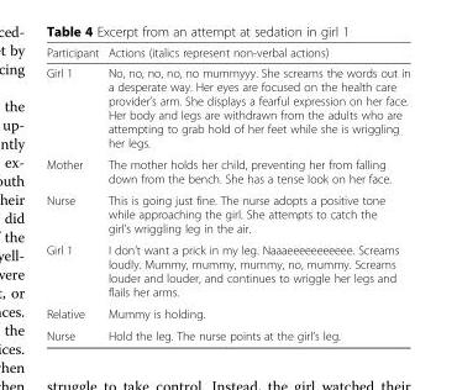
<table><thead><tr><td>Participant</td><td>Actions (italics represent non-verbal actions)</td></tr></thead><tbody><tr><td>Girl 1</td><td>No, no, no, no, no mummyyy. She screams the words out in a desperate way. Her eyes are focused on the health care provider’s arm. She displays a fearful expression on her face. Her body and legs are withdrawn from the adults who are attempting to grab hold of her feet while she is wriggling her legs.</td></tr><tr><td>Mother</td><td>The mother holds her child, preventing her from falling down from the bench. She has a tense look on her face.</td></tr><tr><td>Nurse</td><td>This is going just fine. The nurse adopts a positive tone while approaching the girl. She attempts to catch the girl’s wriggling leg in the air.</td></tr><tr><td>Girl 1</td><td>I don’t want a prick in my leg. Naaaeeeeeeeeeee. Screams loudly. Mummy, mummy, mummy, no, mummy. Screams louder and louder, and continues to wriggle her legs and flails her arms.</td></tr><tr><td>Relative</td><td>Mummy is holding.</td></tr><tr><td>Nurse</td><td>Hold the leg. The nurse points at the girl’s leg.</td></tr></tbody></table>